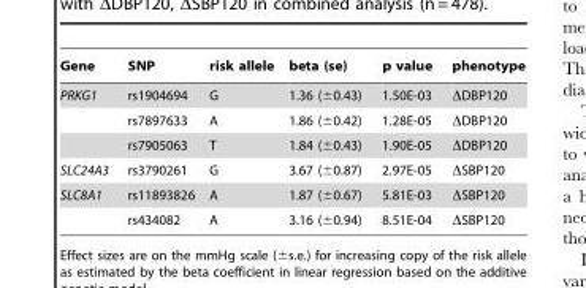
<table><thead><tr><td>Gene</td><td>SNP</td><td>risk allele</td><td>beta (se)</td><td>p value</td><td>phenotype</td></tr></thead><tbody><tr><td rowspan="3">PRKG1</td><td>rs1904694</td><td>G</td><td>1.36 (±0.43)</td><td>1.50E-03</td><td>ΔDBP120</td></tr><tr><td>rs7897633</td><td>A</td><td>1.86 (±0.42)</td><td>1.28E-05</td><td>ΔDBP120</td></tr><tr><td>rs7905063</td><td>T</td><td>1.84 (±0.43)</td><td>1.90E-05</td><td>ΔDBP120</td></tr><tr><td>SLC24A3</td><td>rs3790261</td><td>G</td><td>3.67 (±0.87)</td><td>2.97E-05</td><td>ΔSBP120</td></tr><tr><td rowspan="2">SLC8A1</td><td>rs11893826</td><td>A</td><td>1.87 (±0.67)</td><td>5.81E-03</td><td>ΔSBP120</td></tr><tr><td>rs434082</td><td>A</td><td>3.16 (±0.94)</td><td>8.51E-04</td><td>ΔSBP120</td></tr></tbody></table>